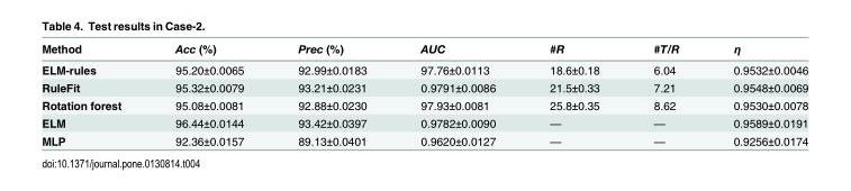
<table><thead><tr><td>Method</td><td>Acc (%)</td><td>Prec (%)</td><td>AUC</td><td>#R</td><td>#T/R</td><td>η</td></tr></thead><tbody><tr><td>ELM-rules</td><td>95.20±0.0065</td><td>92.99±0.0183</td><td>97.76±0.0113</td><td>18.6±0.18</td><td>6.04</td><td>0.9532±0.0046</td></tr><tr><td>RuleFit</td><td>95.32±0.0079</td><td>93.21±0.0231</td><td>0.9791±0.0086</td><td>21.5±0.33</td><td>7.21</td><td>0.9548±0.0069</td></tr><tr><td>Rotation forest</td><td>95.08±0.0081</td><td>92.88±0.0230</td><td>97.93±0.0081</td><td>25.8±0.35</td><td>8.62</td><td>0.9530±0.0078</td></tr><tr><td>ELM</td><td>96.44±0.0144</td><td>93.42±0.0397</td><td>0.9782±0.0090</td><td>—</td><td>—</td><td>0.9589±0.0191</td></tr><tr><td>MLP</td><td>92.36±0.0157</td><td>89.13±0.0401</td><td>0.9620±0.0127</td><td>—</td><td>—</td><td>0.9256±0.0174</td></tr></tbody></table>